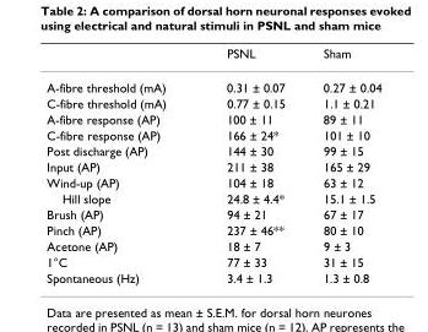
<table><thead><tr><td></td><td>PSNL</td><td>Sham</td></tr></thead><tbody><tr><td>A-fibre threshold (mA)</td><td>0.31 ± 0.07</td><td>0.27 ± 0.04</td></tr><tr><td>C-fibre threshold (mA)</td><td>0.77 ± 0.15</td><td>1.1 ± 0.21</td></tr><tr><td>A-fibre response (AP)</td><td>100 ± 11</td><td>89 ± 11</td></tr><tr><td>C-fibre response (AP)</td><td>166 ± 24*</td><td>101 ± 10</td></tr><tr><td>Post discharge (AP)</td><td>144 ± 30</td><td>99 ± 15</td></tr><tr><td>Input (AP)</td><td>211 ± 38</td><td>165 ± 29</td></tr><tr><td>Wind-up (AP)</td><td>104 ± 18</td><td>63 ± 12</td></tr><tr><td>Hill slope</td><td>24.8 ± 4.4*</td><td>15.1 ± 1.5</td></tr><tr><td>Brush (AP)</td><td>94 ± 21</td><td>67 ± 17</td></tr><tr><td>Pinch (AP)</td><td>237 ± 46**</td><td>80 ± 10</td></tr><tr><td>Acetone (AP)</td><td>18 ± 7</td><td>9 ± 3</td></tr><tr><td>1°C</td><td>77 ± 33</td><td>31 ± 15</td></tr><tr><td>Spontaneous (Hz)</td><td>3.4 ± 1.3</td><td>1.3 ± 0.8</td></tr></tbody></table>